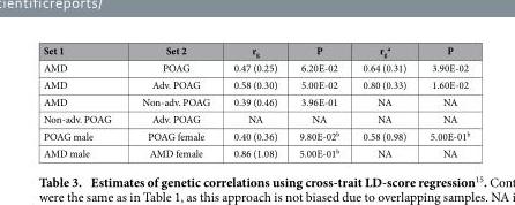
<table><thead><tr><td>Set 1</td><td>Set 2</td><td>r<sub>g</sub></td><td>P</td><td>r<sub>g</sub> <sup>a</sup></td><td>P</td></tr></thead><tbody><tr><td>AMD</td><td>POAG</td><td>0.47 (0.25)</td><td>6.20E-02</td><td>0.64 (0.31)</td><td>3.90E-02</td></tr><tr><td>AMD</td><td>Adv. POAG</td><td>0.58 (0.30)</td><td>5.00E-02</td><td>0.80 (0.33)</td><td>1.60E-02</td></tr><tr><td>AMD</td><td>Non-adv. POAG</td><td>0.39 (0.46)</td><td>3.96E-01</td><td>NA</td><td>NA</td></tr><tr><td>Non-adv. POAG</td><td>Adv. POAG</td><td>NA</td><td>NA</td><td>NA</td><td>NA</td></tr><tr><td>POAG male</td><td>POAG female</td><td>0.40 (0.36)</td><td>9.80E-02<sup>b</sup></td><td>0.58 (0.98)</td><td>5.00E-01<sup>b</sup></td></tr><tr><td>AMD male</td><td>AMD female</td><td>0.86 (1.08)</td><td>5.00E-01<sup>b</sup></td><td>NA</td><td>NA</td></tr></tbody></table>